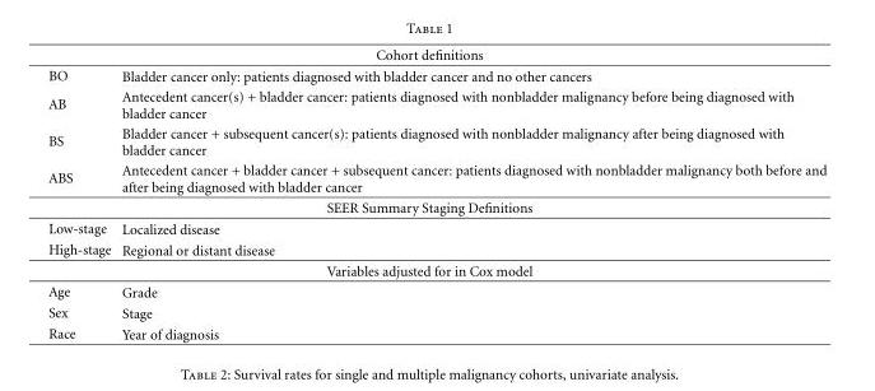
<table><thead><tr><td colspan="2">Cohort definitions</td></tr><tr><td>BO</td><td>Bladder cancer only: patients diagnosed with bladder cancer and no other cancers</td></tr></thead><tbody><tr><td>AB</td><td>Antecedent cancer(s) + bladder cancer: patients diagnosed with nonbladder malignancy before being diagnosed with bladder cancer</td></tr><tr><td>BS</td><td>Bladder cancer + subsequent cancer(s): patients diagnosed with nonbladder malignancy after being diagnosed with bladder cancer</td></tr><tr><td>ABS</td><td>Antecedent cancer + bladder cancer + subsequent cancer: patients diagnosed with nonbladder malignancy both before and after being diagnosed with bladder cancer</td></tr><tr><td colspan="2">SEER Summary Staging Definitions</td></tr><tr><td>Low-stage</td><td>Localized disease</td></tr><tr><td>High-stage</td><td>Regional or distant disease</td></tr><tr><td colspan="2">Variables adjusted for in Cox model</td></tr><tr><td>Age</td><td>Grade</td></tr><tr><td>Sex</td><td>Stage</td></tr><tr><td>Race</td><td>Year of diagnosis</td></tr></tbody></table>